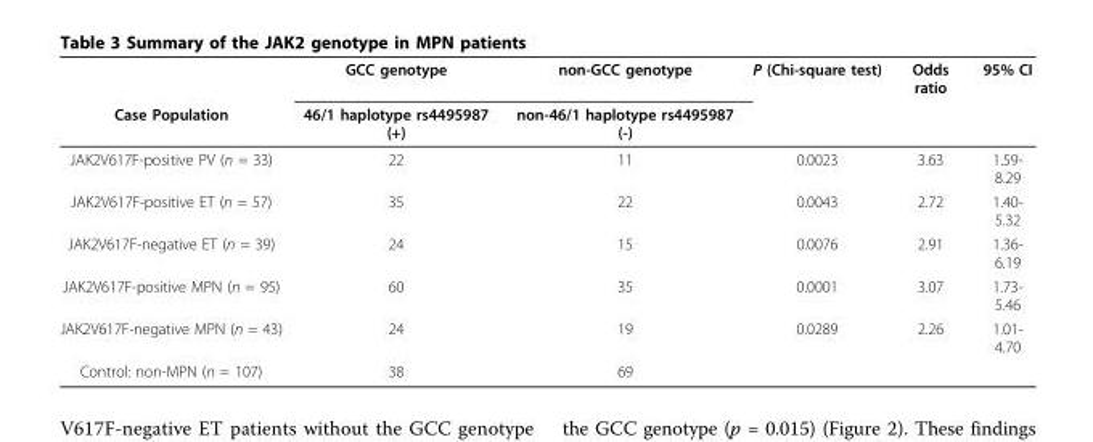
<table><thead><tr><td rowspan="2">Case Population</td><td rowspan="2">GCC genotype 46/1 haplotype rs4495987 (+)</td><td rowspan="2">non-GCC genotype non-46/1 haplotype rs4495987 (-)</td><td rowspan="2">P (Chi-square test)</td><td rowspan="2">Odds ratio</td><td rowspan="2">95% CI</td></tr><tr></tr></thead><tbody><tr><td>JAK2V617F-positive PV (n = 33)</td><td>22</td><td>11</td><td>0.0023</td><td>3.63</td><td>1.59- 8.29</td></tr><tr><td>JAK2V617F-positive ET (n = 57)</td><td>35</td><td>22</td><td>0.0043</td><td>2.72</td><td>1.40- 5.32</td></tr><tr><td>JAK2V617F-negative ET (n = 39)</td><td>24</td><td>15</td><td>0.0076</td><td>2.91</td><td>1.36- 6.19</td></tr><tr><td>JAK2V617F-positive MPN (n = 95)</td><td>60</td><td>35</td><td>0.0001</td><td>3.07</td><td>1.73- 5.46</td></tr><tr><td>JAK2V617F-negative MPN (n = 43)</td><td>24</td><td>19</td><td>0.0289</td><td>2.26</td><td>1.01- 4.70</td></tr><tr><td>Control: non-MPN (n = 107)</td><td>38</td><td>69</td><td></td><td></td><td></td></tr></tbody></table>